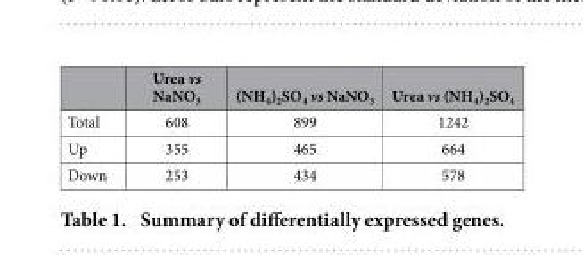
<table><thead><tr><td></td><td>Urea vs NaNO<sub>3</sub></td><td>(NH<sub>4</sub>)<sub>2</sub>SO<sub>4</sub> vs NaNO<sub>3</sub></td><td>Urea vs (NH<sub>4</sub>)<sub>2</sub>SO<sub>4</sub></td></tr></thead><tbody><tr><td>Total</td><td>608</td><td>899</td><td>1242</td></tr><tr><td>Up</td><td>355</td><td>465</td><td>664</td></tr><tr><td>Down</td><td>253</td><td>434</td><td>578</td></tr></tbody></table>